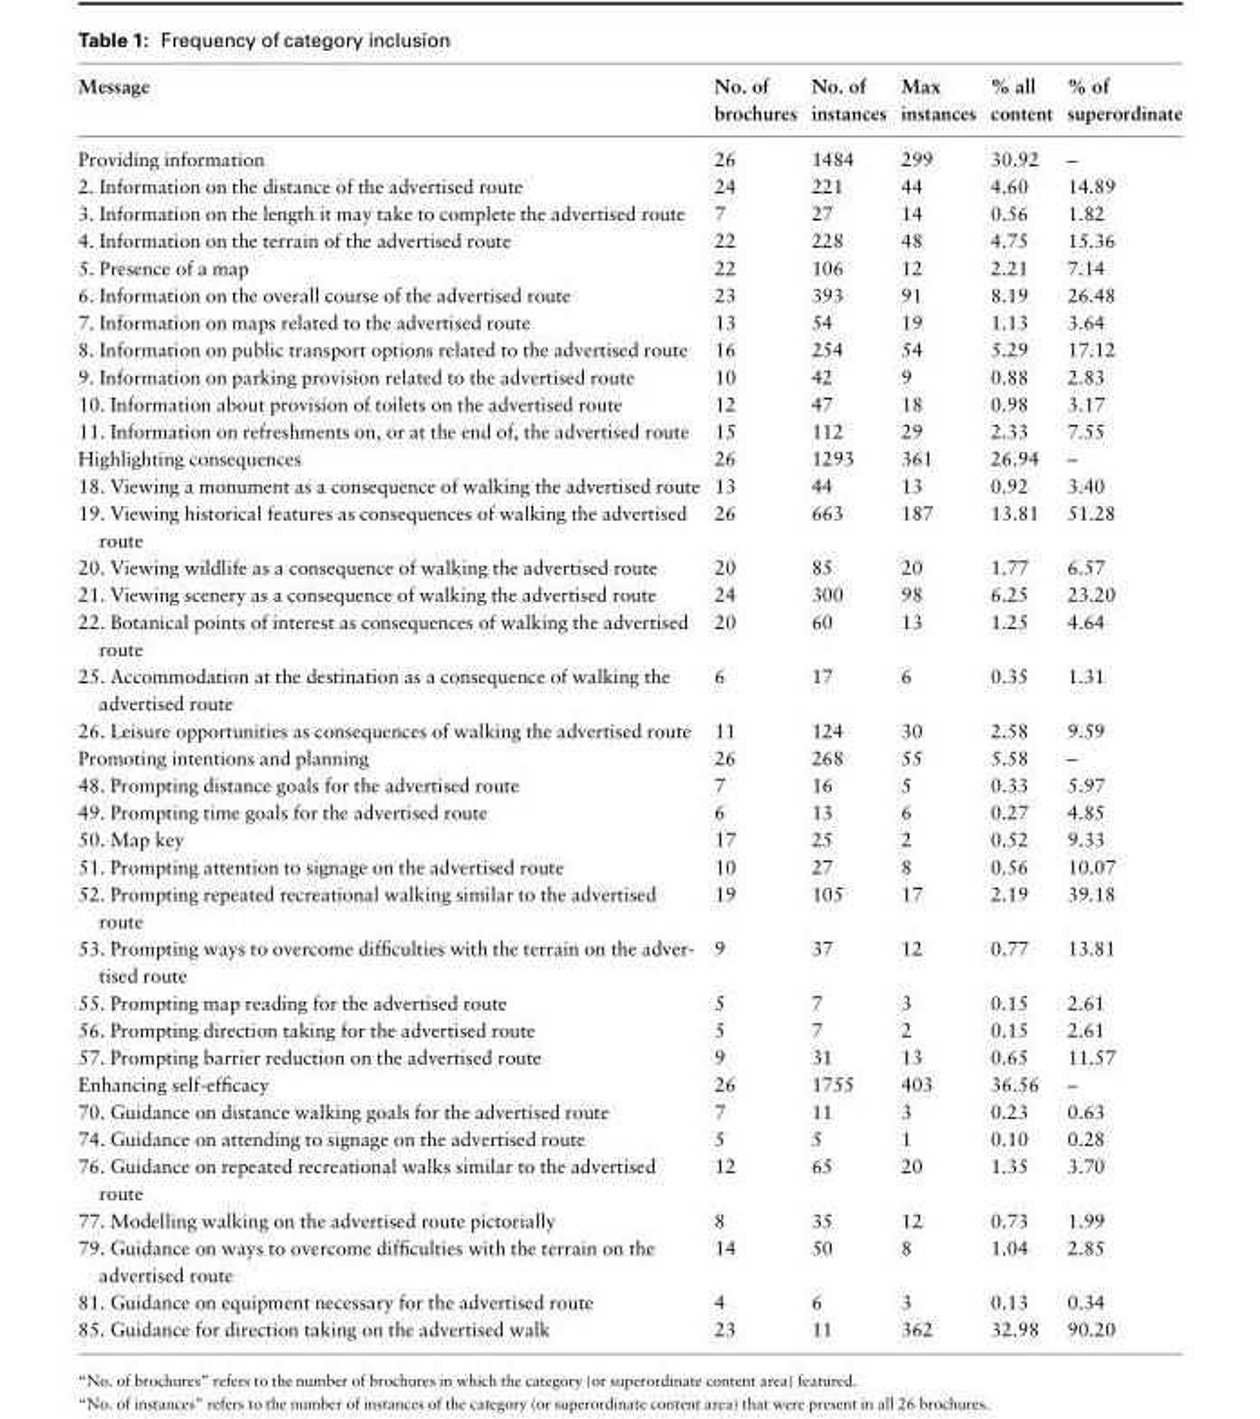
<table><thead><tr><td>Message</td><td>No. of brochures</td><td>No. of instances</td><td>Max instances</td><td>% all content</td><td>% of superordinate</td></tr></thead><tbody><tr><td>Providing information</td><td>26</td><td>1484</td><td>299</td><td>30.92</td><td>–</td></tr><tr><td>2. Information on the distance of the advertised route</td><td>24</td><td>221</td><td>44</td><td>4.60</td><td>14.89</td></tr><tr><td>3. Information on the length it may take to complete the advertised route</td><td>7</td><td>27</td><td>14</td><td>0.56</td><td>1.82</td></tr><tr><td>4. Information on the terrain of the advertised route</td><td>22</td><td>228</td><td>48</td><td>4.75</td><td>15.36</td></tr><tr><td>5. Presence of a map</td><td>22</td><td>106</td><td>12</td><td>2.21</td><td>7.14</td></tr><tr><td>6. Information on the overall course of the advertised route</td><td>23</td><td>393</td><td>91</td><td>8.19</td><td>26.48</td></tr><tr><td>7. Information on maps related to the advertised route</td><td>13</td><td>54</td><td>19</td><td>1.13</td><td>3.64</td></tr><tr><td>8. Information on public transport options related to the advertised route</td><td>16</td><td>254</td><td>54</td><td>5.29</td><td>17.12</td></tr><tr><td>9. Information on parking provision related to the advertised route</td><td>10</td><td>42</td><td>9</td><td>0.88</td><td>2.83</td></tr><tr><td>10. Information about provision of toilets on the advertised route</td><td>12</td><td>47</td><td>18</td><td>0.98</td><td>3.17</td></tr><tr><td>11. Information on refreshments on, or at the end of, the advertised route</td><td>15</td><td>112</td><td>29</td><td>2.33</td><td>7.55</td></tr><tr><td>Highlighting consequences</td><td>26</td><td>1293</td><td>361</td><td>26.94</td><td>–</td></tr><tr><td>18. Viewing a monument as a consequence of walking the advertised route</td><td>13</td><td>44</td><td>13</td><td>0.92</td><td>3.40</td></tr><tr><td>19. Viewing historical features as consequences of walking the advertised route</td><td>26</td><td>663</td><td>187</td><td>13.81</td><td>51.28</td></tr><tr><td>20. Viewing wildlife as a consequence of walking the advertised route</td><td>20</td><td>85</td><td>20</td><td>1.77</td><td>6.57</td></tr><tr><td>21. Viewing scenery as a consequence of walking the advertised route</td><td>24</td><td>300</td><td>98</td><td>6.25</td><td>23.20</td></tr><tr><td>22. Botanical points of interest as consequences of walking the advertised route</td><td>20</td><td>60</td><td>13</td><td>1.25</td><td>4.64</td></tr><tr><td>25. Accommodation at the destination as a consequence of walking the advertised route</td><td>6</td><td>17</td><td>6</td><td>0.35</td><td>1.31</td></tr><tr><td>26. Leisure opportunities as consequences of walking the advertised route</td><td>11</td><td>124</td><td>30</td><td>2.58</td><td>9.59</td></tr><tr><td>Promoting intentions and planning</td><td>26</td><td>268</td><td>55</td><td>5.58</td><td>–</td></tr><tr><td>48. Prompting distance goals for the advertised route</td><td>7</td><td>16</td><td>5</td><td>0.33</td><td>5.97</td></tr><tr><td>49. Prompting time goals for the advertised route</td><td>6</td><td>13</td><td>6</td><td>0.27</td><td>4.85</td></tr><tr><td>50. Map key</td><td>17</td><td>25</td><td>2</td><td>0.52</td><td>9.33</td></tr><tr><td>51. Prompting attention to signage on the advertised route</td><td>10</td><td>27</td><td>8</td><td>0.56</td><td>10.07</td></tr><tr><td>52. Prompting repeated recreational walking similar to the advertised route</td><td>19</td><td>105</td><td>17</td><td>2.19</td><td>39.18</td></tr><tr><td>53. Prompting ways to overcome difficulties with the terrain on the adver- tised route</td><td>9</td><td>37</td><td>12</td><td>0.77</td><td>13.81</td></tr><tr><td>55. Prompting map reading for the advertised route</td><td>5</td><td>7</td><td>3</td><td>0.15</td><td>2.61</td></tr><tr><td>56. Prompting direction taking for the advertised route</td><td>5</td><td>7</td><td>2</td><td>0.15</td><td>2.61</td></tr><tr><td>57. Prompting barrier reduction on the advertised route</td><td>9</td><td>31</td><td>13</td><td>0.65</td><td>11.57</td></tr><tr><td>Enhancing self-efficacy</td><td>26</td><td>1755</td><td>403</td><td>36.56</td><td>–</td></tr><tr><td>70. Guidance on distance walking goals for the advertised route</td><td>7</td><td>11</td><td>3</td><td>0.23</td><td>0.63</td></tr><tr><td>74. Guidance on attending to signage on the advertised route</td><td>5</td><td>5</td><td>1</td><td>0.10</td><td>0.28</td></tr><tr><td>76. Guidance on repeated recreational walks similar to the advertised route</td><td>12</td><td>65</td><td>20</td><td>1.35</td><td>3.70</td></tr><tr><td>77. Modelling walking on the advertised route pictorially</td><td>8</td><td>35</td><td>12</td><td>0.73</td><td>1.99</td></tr><tr><td>79. Guidance on ways to overcome difficulties with the terrain on the advertised route</td><td>14</td><td>50</td><td>8</td><td>1.04</td><td>2.85</td></tr><tr><td>81. Guidance on equipment necessary for the advertised route</td><td>4</td><td>6</td><td>3</td><td>0.13</td><td>0.34</td></tr><tr><td>85. Guidance for direction taking on the advertised walk</td><td>23</td><td>11</td><td>362</td><td>32.98</td><td>90.20</td></tr></tbody></table>